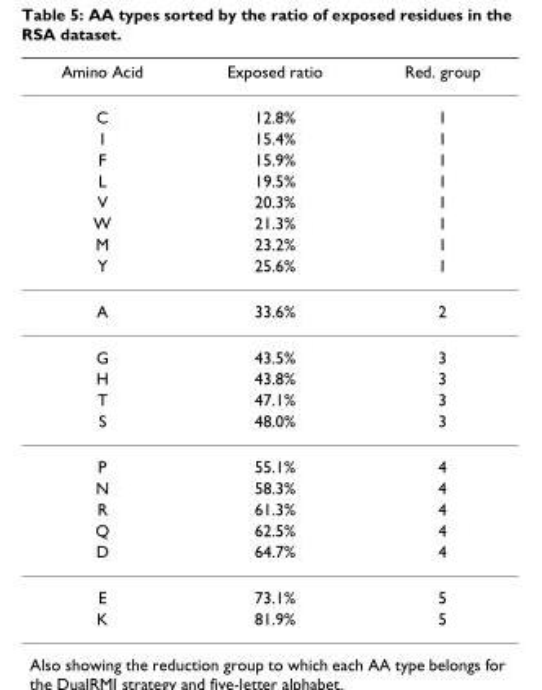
<table><thead><tr><td>Amino Acid</td><td>Exposed ratio</td><td>Red. group</td></tr></thead><tbody><tr><td>C</td><td>12.8%</td><td>1</td></tr><tr><td>I</td><td>15.4%</td><td>1</td></tr><tr><td>F</td><td>15.9%</td><td>1</td></tr><tr><td>L</td><td>19.5%</td><td>1</td></tr><tr><td>V</td><td>20.3%</td><td>1</td></tr><tr><td>W</td><td>21.3%</td><td>1</td></tr><tr><td>M</td><td>23.2%</td><td>1</td></tr><tr><td>Y</td><td>25.6%</td><td>1</td></tr><tr><td>A</td><td>33.6%</td><td>2</td></tr><tr><td>G</td><td>43.5%</td><td>3</td></tr><tr><td>H</td><td>43.8%</td><td>3</td></tr><tr><td>T</td><td>47.1%</td><td>3</td></tr><tr><td>S</td><td>48.0%</td><td>3</td></tr><tr><td>P</td><td>55.1%</td><td>4</td></tr><tr><td>N</td><td>58.3%</td><td>4</td></tr><tr><td>R</td><td>61.3%</td><td>4</td></tr><tr><td>Q</td><td>62.5%</td><td>4</td></tr><tr><td>D</td><td>64.7%</td><td>4</td></tr><tr><td>E</td><td>73.1%</td><td>5</td></tr><tr><td>K</td><td>81.9%</td><td>5</td></tr></tbody></table>